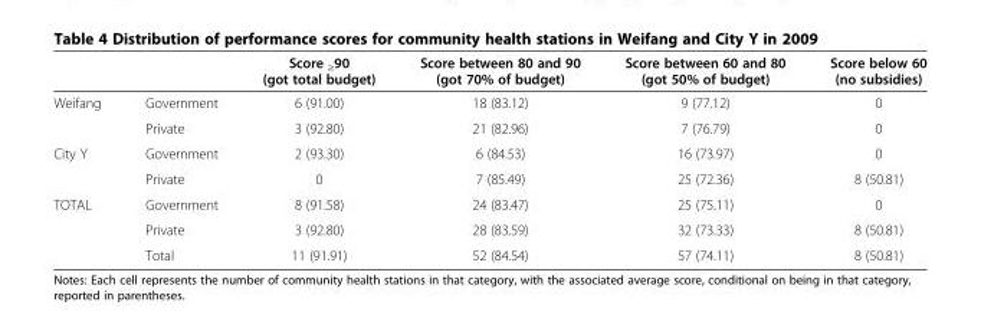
<table><thead><tr><td></td><td></td><td>Score <sub>≥</sub>90 (got total budget)</td><td>Score between 80 and 90 (got 70% of budget)</td><td>Score between 60 and 80 (got 50% of budget)</td><td>Score below 60 (no subsidies)</td></tr></thead><tbody><tr><td rowspan="2">Weifang</td><td>Government</td><td>6 (91.00)</td><td>18 (83.12)</td><td>9 (77.12)</td><td>0</td></tr><tr><td>Private</td><td>3 (92.80)</td><td>21 (82.96)</td><td>7 (76.79)</td><td>0</td></tr><tr><td rowspan="2">City Y</td><td>Government</td><td>2 (93.30)</td><td>6 (84.53)</td><td>16 (73.97)</td><td>0</td></tr><tr><td>Private</td><td>0</td><td>7 (85.49)</td><td>25 (72.36)</td><td>8 (50.81)</td></tr><tr><td rowspan="3">TOTAL</td><td>Government</td><td>8 (91.58)</td><td>24 (83.47)</td><td>25 (75.11)</td><td>0</td></tr><tr><td>Private</td><td>3 (92.80)</td><td>28 (83.59)</td><td>32 (73.33)</td><td>8 (50.81)</td></tr><tr><td>Total</td><td>11 (91.91)</td><td>52 (84.54)</td><td>57 (74.11)</td><td>8 (50.81)</td></tr></tbody></table>